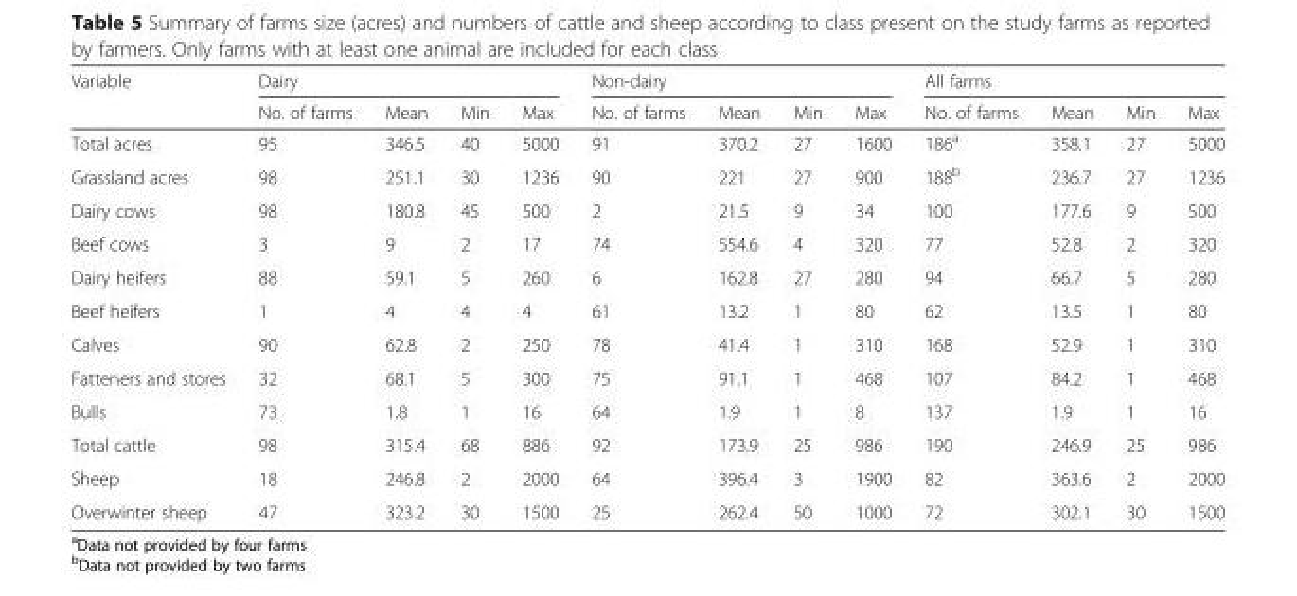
<table><thead><tr><td rowspan="2">Variable</td><td colspan="4">Dairy</td><td colspan="4">Non-dairy</td><td colspan="4">All farms</td></tr><tr><td>No. of farms</td><td>Mean</td><td>Min</td><td>Max</td><td>No. of farms</td><td>Mean</td><td>Min</td><td>Max</td><td>No. of farms</td><td>Mean</td><td>Min</td><td>Max</td></tr></thead><tbody><tr><td>Total acres</td><td>95</td><td>346.5</td><td>40</td><td>5000</td><td>91</td><td>370.2</td><td>27</td><td>1600</td><td>186<sup>a</sup></td><td>358.1</td><td>27</td><td>5000</td></tr><tr><td>Grassland acres</td><td>98</td><td>251.1</td><td>30</td><td>1236</td><td>90</td><td>221</td><td>27</td><td>900</td><td>188<sup>b</sup></td><td>236.7</td><td>27</td><td>1236</td></tr><tr><td>Dairy cows</td><td>98</td><td>180.8</td><td>45</td><td>500</td><td>2</td><td>21.5</td><td>9</td><td>34</td><td>100</td><td>177.6</td><td>9</td><td>500</td></tr><tr><td>Beef cows</td><td>3</td><td>9</td><td>2</td><td>17</td><td>74</td><td>554.6</td><td>4</td><td>320</td><td>77</td><td>52.8</td><td>2</td><td>320</td></tr><tr><td>Dairy heifers</td><td>88</td><td>59.1</td><td>5</td><td>260</td><td>6</td><td>162.8</td><td>27</td><td>280</td><td>94</td><td>66.7</td><td>5</td><td>280</td></tr><tr><td>Beef heifers</td><td>1</td><td>4</td><td>4</td><td>4</td><td>61</td><td>13.2</td><td>1</td><td>80</td><td>62</td><td>13.5</td><td>1</td><td>80</td></tr><tr><td>Calves</td><td>90</td><td>62.8</td><td>2</td><td>250</td><td>78</td><td>41.4</td><td>1</td><td>310</td><td>168</td><td>52.9</td><td>1</td><td>310</td></tr><tr><td>Fatteners and stores</td><td>32</td><td>68.1</td><td>5</td><td>300</td><td>75</td><td>91.1</td><td>1</td><td>468</td><td>107</td><td>84.2</td><td>1</td><td>468</td></tr><tr><td>Bulls</td><td>73</td><td>1.8</td><td>1</td><td>16</td><td>64</td><td>1.9</td><td>1</td><td>8</td><td>137</td><td>1.9</td><td>1</td><td>16</td></tr><tr><td>Total cattle</td><td>98</td><td>315.4</td><td>68</td><td>886</td><td>92</td><td>173.9</td><td>25</td><td>986</td><td>190</td><td>246.9</td><td>25</td><td>986</td></tr><tr><td>Sheep</td><td>18</td><td>246.8</td><td>2</td><td>2000</td><td>64</td><td>396.4</td><td>3</td><td>1900</td><td>82</td><td>363.6</td><td>2</td><td>2000</td></tr><tr><td>Overwinter sheep</td><td>47</td><td>323.2</td><td>30</td><td>1500</td><td>25</td><td>262.4</td><td>50</td><td>1000</td><td>72</td><td>302.1</td><td>30</td><td>1500</td></tr></tbody></table>